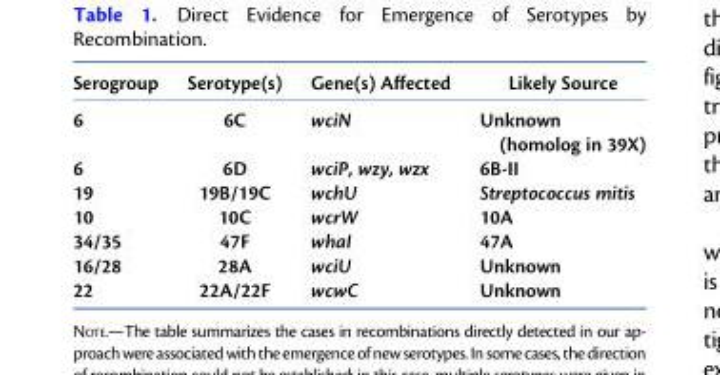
<table><thead><tr><td>Serogroup</td><td>Serotype(s)</td><td>Gene(s) Affected</td><td>Likely Source</td></tr></thead><tbody><tr><td>6</td><td>6C</td><td>wciN</td><td>Unknown (homolog in 39X)</td></tr><tr><td>6</td><td>6D</td><td>wciP, wzy, wzx</td><td>6B-II</td></tr><tr><td>19</td><td>19B/19C</td><td>wchU</td><td>Streptococcus mitis</td></tr><tr><td>10</td><td>10C</td><td>wcrW</td><td>10A</td></tr><tr><td>34/35</td><td>47F</td><td>whaI</td><td>47A</td></tr><tr><td>16/28</td><td>28A</td><td>wciU</td><td>Unknown</td></tr><tr><td>22</td><td>22A/22F</td><td>wcwC</td><td>Unknown</td></tr></tbody></table>